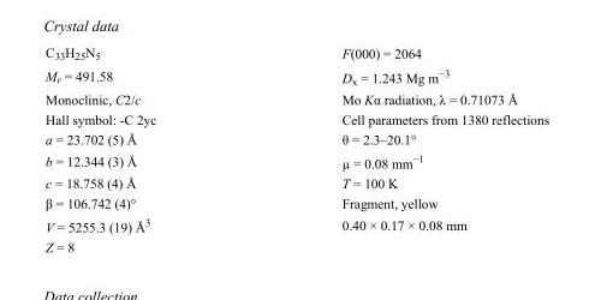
<table><tbody><tr><td>C<sub>33</sub>H<sub>25</sub>N<sub>5</sub></td><td>F(000) = 2064</td></tr><tr><td>M<sub>r</sub> = 491.58</td><td>D<sub>x</sub> = 1.243 Mg m<sup>−3</sup></td></tr><tr><td>Monoclinic, C2/c</td><td>Mo Kα radiation, λ = 0.71073 Å</td></tr><tr><td>Hall symbol: -C 2yc</td><td>Cell parameters from 1380 reflections</td></tr><tr><td>a = 23.702 (5) Å</td><td>θ = 2.3–20.1°</td></tr><tr><td>b = 12.344 (3) Å</td><td>µ = 0.08 mm<sup>−1</sup></td></tr><tr><td>c = 18.758 (4) Å</td><td>T = 100 K</td></tr><tr><td>β = 106.742 (4)°</td><td>Fragment, yellow</td></tr><tr><td>V = 5255.3 (19) Å<sup>3</sup></td><td>0.40 × 0.17 × 0.08 mm</td></tr><tr><td>Z = 8</td><td></td></tr></tbody></table>